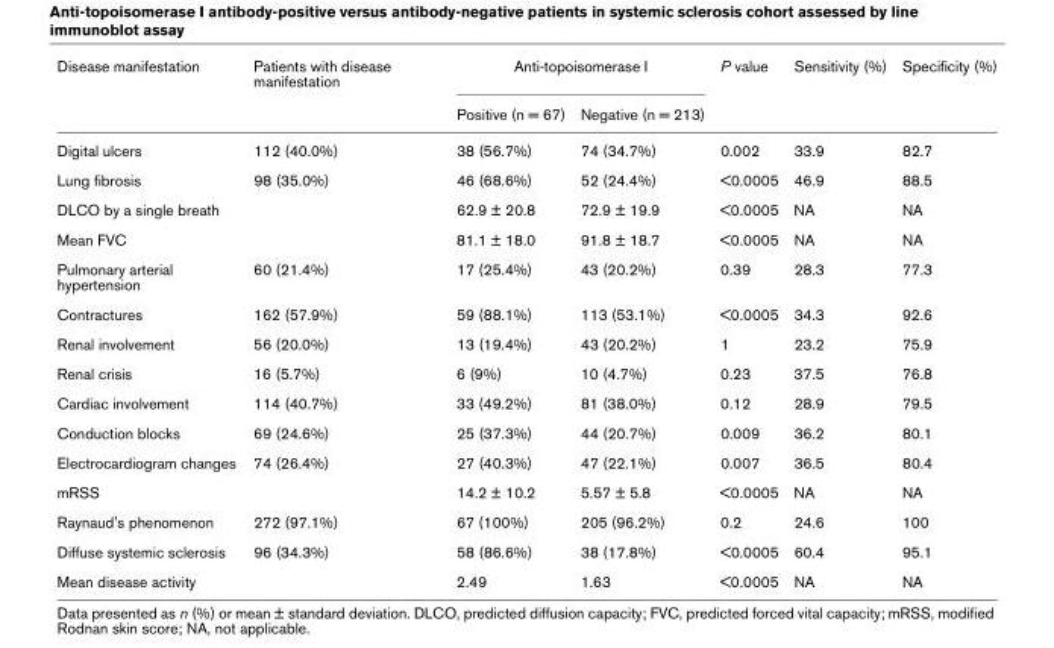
<table><thead><tr><td rowspan="2">Disease manifestation</td><td rowspan="2">Patients with disease manifestation</td><td colspan="2">Anti-topoisomerase I</td><td rowspan="2">P value</td><td rowspan="2">Sensitivity (%)</td><td rowspan="2">Specificity (%)</td></tr><tr><td>Positive (n = 67)</td><td>Negative (n = 213)</td></tr></thead><tbody><tr><td>Digital ulcers</td><td>112 (40.0%)</td><td>38 (56.7%)</td><td>74 (34.7%)</td><td>0.002</td><td>33.9</td><td>82.7</td></tr><tr><td>Lung fibrosis</td><td>98 (35.0%)</td><td>46 (68.6%)</td><td>52 (24.4%)</td><td>&lt;0.0005</td><td>46.9</td><td>88.5</td></tr><tr><td>DLCO by a single breath</td><td></td><td>62.9 ± 20.8</td><td>72.9 ± 19.9</td><td>&lt;0.0005</td><td>NA</td><td>NA</td></tr><tr><td>Mean FVC</td><td></td><td>81.1 ± 18.0</td><td>91.8 ± 18.7</td><td>&lt;0.0005</td><td>NA</td><td>NA</td></tr><tr><td>Pulmonary arterial hypertension</td><td>60 (21.4%)</td><td>17 (25.4%)</td><td>43 (20.2%)</td><td>0.39</td><td>28.3</td><td>77.3</td></tr><tr><td>Contractures</td><td>162 (57.9%)</td><td>59 (88.1%)</td><td>113 (53.1%)</td><td>&lt;0.0005</td><td>34.3</td><td>92.6</td></tr><tr><td>Renal involvement</td><td>56 (20.0%)</td><td>13 (19.4%)</td><td>43 (20.2%)</td><td>1</td><td>23.2</td><td>75.9</td></tr><tr><td>Renal crisis</td><td>16 (5.7%)</td><td>6 (9%)</td><td>10 (4.7%)</td><td>0.23</td><td>37.5</td><td>76.8</td></tr><tr><td>Cardiac involvement</td><td>114 (40.7%)</td><td>33 (49.2%)</td><td>81 (38.0%)</td><td>0.12</td><td>28.9</td><td>79.5</td></tr><tr><td>Conduction blocks</td><td>69 (24.6%)</td><td>25 (37.3%)</td><td>44 (20.7%)</td><td>0.009</td><td>36.2</td><td>80.1</td></tr><tr><td>Electrocardiogram changes</td><td>74 (26.4%)</td><td>27 (40.3%)</td><td>47 (22.1%)</td><td>0.007</td><td>36.5</td><td>80.4</td></tr><tr><td>mRSS</td><td></td><td>14.2 ± 10.2</td><td>5.57 ± 5.8</td><td>&lt;0.0005</td><td>NA</td><td>NA</td></tr><tr><td>Raynaud&#x27;s phenomenon</td><td>272 (97.1%)</td><td>67 (100%)</td><td>205 (96.2%)</td><td>0.2</td><td>24.6</td><td>100</td></tr><tr><td>Diffuse systemic sclerosis</td><td>96 (34.3%)</td><td>58 (86.6%)</td><td>38 (17.8%)</td><td>&lt;0.0005</td><td>60.4</td><td>95.1</td></tr><tr><td>Mean disease activity</td><td></td><td>2.49</td><td>1.63</td><td>&lt;0.0005</td><td>NA</td><td>NA</td></tr></tbody></table>